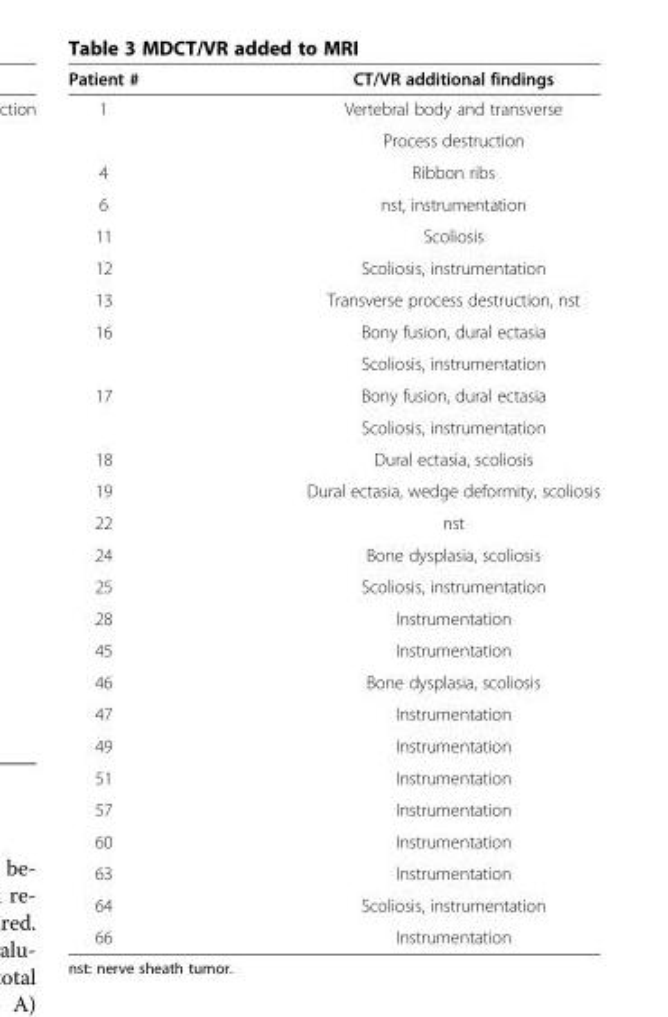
<table><thead><tr><td>Patient #</td><td>CT/VR additional findings</td></tr></thead><tbody><tr><td rowspan="2">1</td><td>Vertebral body and transverse</td></tr><tr><td>Process destruction</td></tr><tr><td>4</td><td>Ribbon ribs</td></tr><tr><td>6</td><td>nst, instrumentation</td></tr><tr><td>11</td><td>Scoliosis</td></tr><tr><td>12</td><td>Scoliosis, instrumentation</td></tr><tr><td>13</td><td>Transverse process destruction, nst</td></tr><tr><td rowspan="2">16</td><td>Bony fusion, dural ectasia</td></tr><tr><td>Scoliosis, instrumentation</td></tr><tr><td rowspan="2">17</td><td>Bony fusion, dural ectasia</td></tr><tr><td>Scoliosis, instrumentation</td></tr><tr><td>18</td><td>Dural ectasia, scoliosis</td></tr><tr><td>19</td><td>Dural ectasia, wedge deformity, scoliosis</td></tr><tr><td>22</td><td>nst</td></tr><tr><td>24</td><td>Bone dysplasia, scoliosis</td></tr><tr><td>25</td><td>Scoliosis, instrumentation</td></tr><tr><td>28</td><td>Instrumentation</td></tr><tr><td>45</td><td>Instrumentation</td></tr><tr><td>46</td><td>Bone dysplasia, scoliosis</td></tr><tr><td>47</td><td>Instrumentation</td></tr><tr><td>49</td><td>Instrumentation</td></tr><tr><td>51</td><td>Instrumentation</td></tr><tr><td>57</td><td>Instrumentation</td></tr><tr><td>60</td><td>Instrumentation</td></tr><tr><td>63</td><td>Instrumentation</td></tr><tr><td>64</td><td>Scoliosis, instrumentation</td></tr><tr><td>66</td><td>Instrumentation</td></tr></tbody></table>